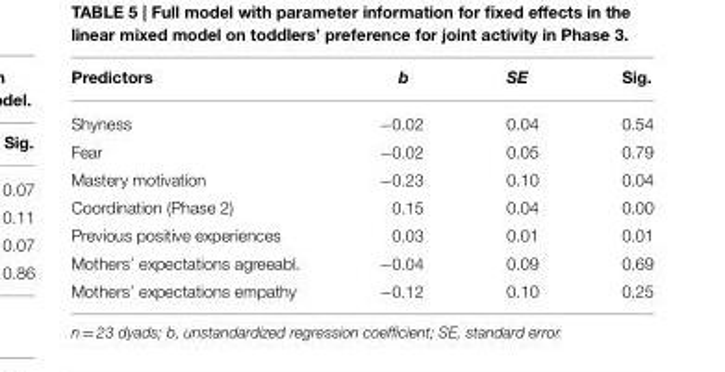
<table><thead><tr><td>Predictors</td><td>b</td><td>SE</td><td>Sig.</td></tr></thead><tbody><tr><td>Shyness</td><td>−0.02</td><td>0.04</td><td>0.54</td></tr><tr><td>Fear</td><td>−0.02</td><td>0.05</td><td>0.79</td></tr><tr><td>Mastery motivation</td><td>−0.23</td><td>0.10</td><td>0.04</td></tr><tr><td>Coordination (Phase 2)</td><td>0.15</td><td>0.04</td><td>0.00</td></tr><tr><td>Previous positive experiences</td><td>0.03</td><td>0.01</td><td>0.01</td></tr><tr><td>Mothers’ expectations agreeabl.</td><td>−0.04</td><td>0.09</td><td>0.69</td></tr><tr><td>Mothers’ expectations empathy</td><td>−0.12</td><td>0.10</td><td>0.25</td></tr></tbody></table>